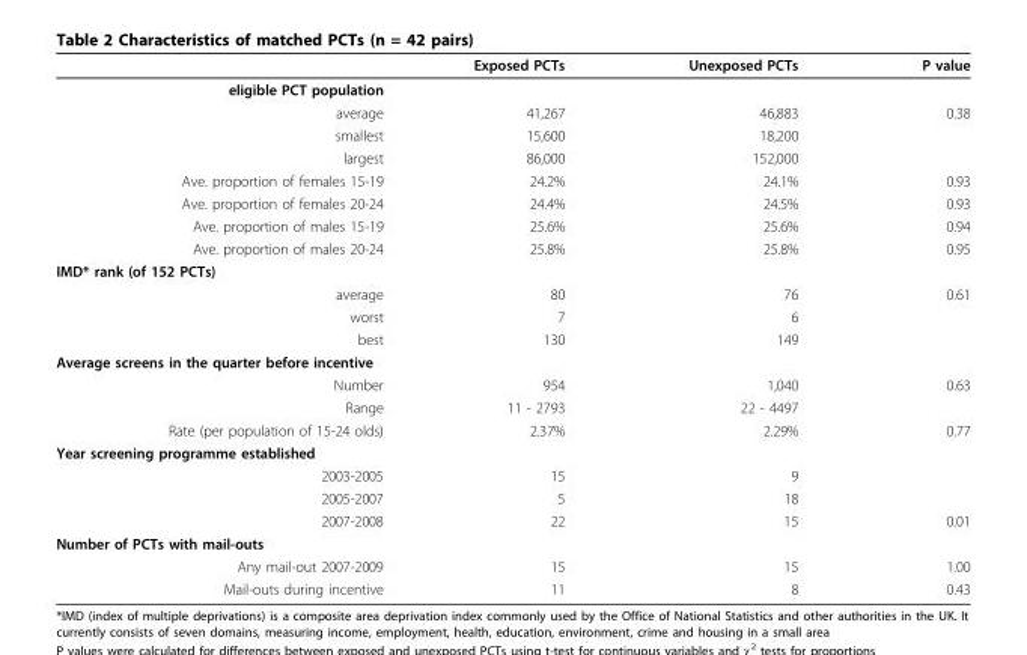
<table><thead><tr><td colspan="2">Exposed PCTs</td><td rowspan="2">Unexposed PCTs</td><td rowspan="2">P value</td></tr><tr><td>eligible PCT population</td><td></td></tr></thead><tbody><tr><td>average</td><td>41,267</td><td>46,883</td><td>0.38</td></tr><tr><td>smallest</td><td>15,600</td><td>18,200</td><td></td></tr><tr><td>largest</td><td>86,000</td><td>152,000</td><td></td></tr><tr><td>Ave. proportion of females 15-19</td><td>24.2%</td><td>24.1%</td><td>0.93</td></tr><tr><td>Ave. proportion of females 20-24</td><td>24.4%</td><td>24.5%</td><td>0.93</td></tr><tr><td>Ave. proportion of males 15-19</td><td>25.6%</td><td>25.6%</td><td>0.94</td></tr><tr><td>Ave. proportion of males 20-24</td><td>25.8%</td><td>25.8%</td><td>0.95</td></tr><tr><td colspan="4">IMD* rank (of 152 PCTs)</td></tr><tr><td>average</td><td>80</td><td>76</td><td>0.61</td></tr><tr><td>worst</td><td>7</td><td>6</td><td></td></tr><tr><td>best</td><td>130</td><td>149</td><td></td></tr><tr><td colspan="4">Average screens in the quarter before incentive</td></tr><tr><td>Number</td><td>954</td><td>1,040</td><td>0.63</td></tr><tr><td>Range</td><td>11 - 2793</td><td>22 - 4497</td><td></td></tr><tr><td>Rate (per population of 15-24 olds)</td><td>2.37%</td><td>2.29%</td><td>0.77</td></tr><tr><td colspan="4">Year screening programme established</td></tr><tr><td>2003-2005</td><td>15</td><td>9</td><td></td></tr><tr><td>2005-2007</td><td>5</td><td>18</td><td></td></tr><tr><td>2007-2008</td><td>22</td><td>15</td><td>0.01</td></tr><tr><td colspan="4">Number of PCTs with mail-outs</td></tr><tr><td>Any mail-out 2007-2009</td><td>15</td><td>15</td><td>1.00</td></tr><tr><td>Mail-outs during incentive</td><td>11</td><td>8</td><td>0.43</td></tr></tbody></table>